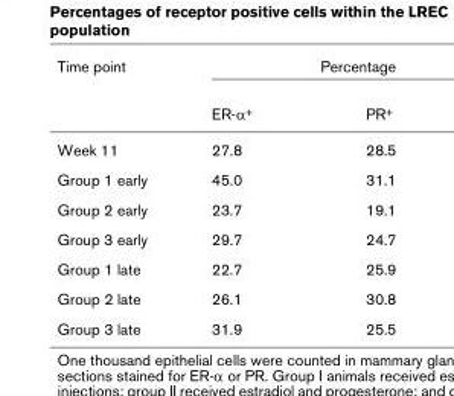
<table><thead><tr><td rowspan="2">Time point</td><td colspan="2">Percentage</td></tr><tr><td>ER-α+</td><td>PR+</td></tr></thead><tbody><tr><td>Week 11</td><td>27.8</td><td>28.5</td></tr><tr><td>Group 1 early</td><td>45.0</td><td>31.1</td></tr><tr><td>Group 2 early</td><td>23.7</td><td>19.1</td></tr><tr><td>Group 3 early</td><td>29.7</td><td>24.7</td></tr><tr><td>Group 1 late</td><td>22.7</td><td>25.9</td></tr><tr><td>Group 2 late</td><td>26.1</td><td>30.8</td></tr><tr><td>Group 3 late</td><td>31.9</td><td>25.5</td></tr></tbody></table>